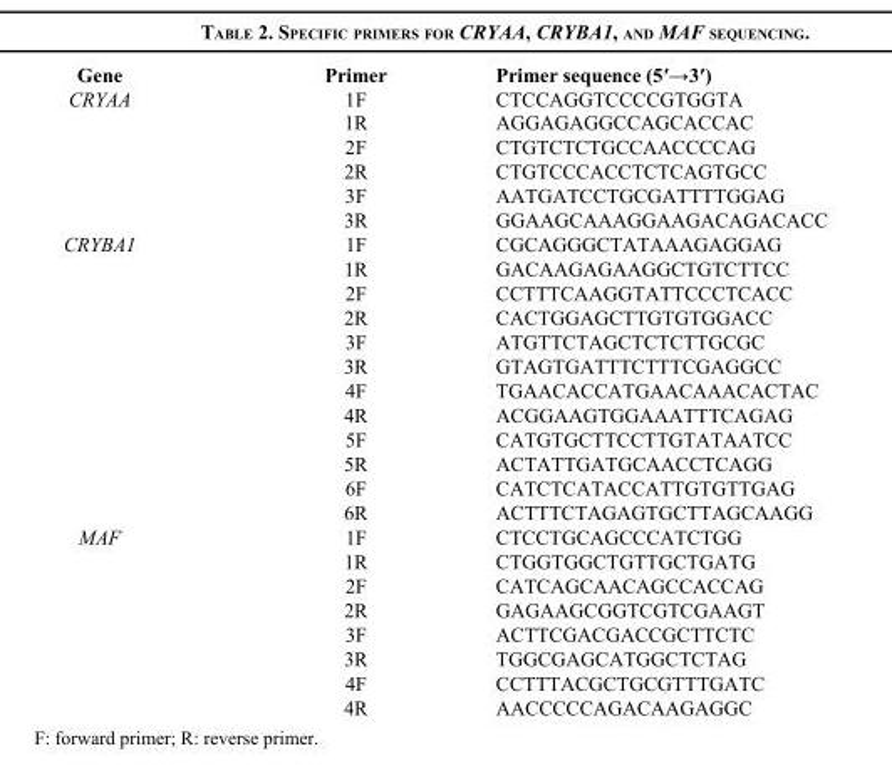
<table><thead><tr><td>Gene</td><td>Primer</td><td>Primer sequence (5′→3′)</td></tr></thead><tbody><tr><td rowspan="6">CRYAA</td><td>1F</td><td>CTCCAGGTCCCCGTGGTA</td></tr><tr><td>1R</td><td>AGGAGAGGCCAGCACCAC</td></tr><tr><td>2F</td><td>CTGTCTCTGCCAACCCCAG</td></tr><tr><td>2R</td><td>CTGTCCCACCTCTCAGTGCC</td></tr><tr><td>3F</td><td>AATGATCCTGCGATTTTGGAG</td></tr><tr><td>3R</td><td>GGAAGCAAAGGAAGACAGACACC</td></tr><tr><td rowspan="12">CRYBA1</td><td>1F</td><td>CGCAGGGCTATAAAGAGGAG</td></tr><tr><td>1R</td><td>GACAAGAGAAGGCTGTCTTCC</td></tr><tr><td>2F</td><td>CCTTTCAAGGTATTCCCTCACC</td></tr><tr><td>2R</td><td>CACTGGAGCTTGTGTGGACC</td></tr><tr><td>3F</td><td>ATGTTCTAGCTCTCTTGCGC</td></tr><tr><td>3R</td><td>GTAGTGATTTCTTTCGAGGCC</td></tr><tr><td>4F</td><td>TGAACACCATGAACAAACACTAC</td></tr><tr><td>4R</td><td>ACGGAAGTGGAAATTTCAGAG</td></tr><tr><td>5F</td><td>CATGTGCTTCCTTGTATAATCC</td></tr><tr><td>5R</td><td>ACTATTGATGCAACCTCAGG</td></tr><tr><td>6F</td><td>CATCTCATACCATTGTGTTGAG</td></tr><tr><td>6R</td><td>ACTTTCTAGAGTGCTTAGCAAGG</td></tr><tr><td rowspan="8">MAF</td><td>1F</td><td>CTCCTGCAGCCCATCTGG</td></tr><tr><td>1R</td><td>CTGGTGGCTGTTGCTGATG</td></tr><tr><td>2F</td><td>CATCAGCAACAGCCACCAG</td></tr><tr><td>2R</td><td>GAGAAGCGGTCGTCGAAGT</td></tr><tr><td>3F</td><td>ACTTCGACGACCGCTTCTC</td></tr><tr><td>3R</td><td>TGGCGAGCATGGCTCTAG</td></tr><tr><td>4F</td><td>CCTTTACGCTGCGTTTGATC</td></tr><tr><td>4R</td><td>AACCCCCAGACAAGAGGC</td></tr></tbody></table>